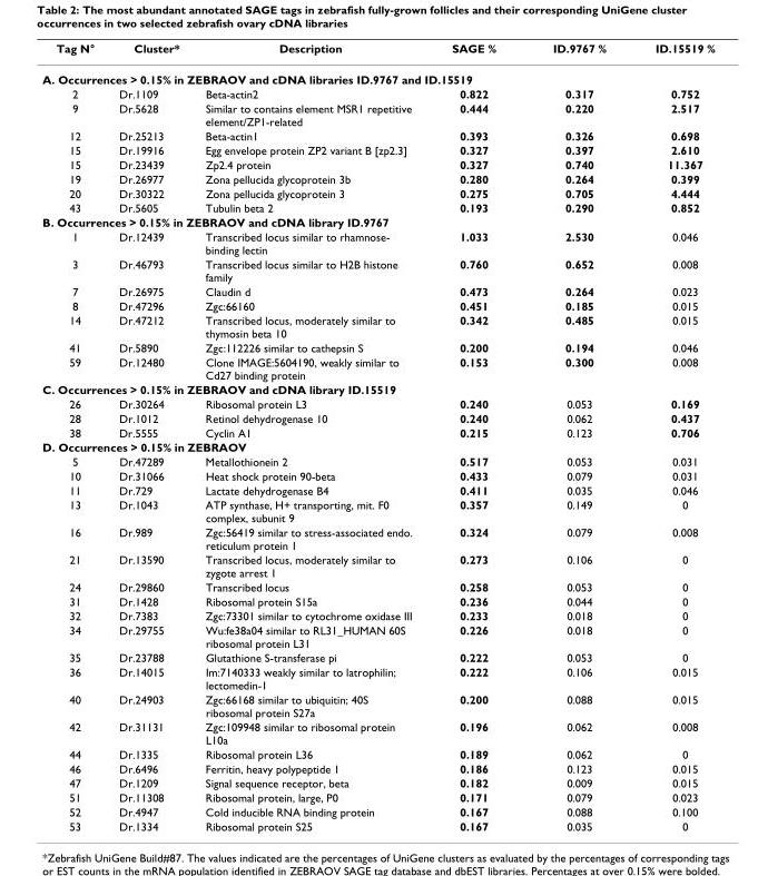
<table><thead><tr><td>Tag N°</td><td>Cluster*</td><td>Description</td><td>SAGE %</td><td>ID.9767 %</td><td>ID.15519 %</td></tr></thead><tbody><tr><td colspan="6">A. Occurrences &gt; 0.15% in ZEBRAOV and cDNA libraries ID.9767 and ID.15519</td></tr><tr><td>2</td><td>Dr.1109</td><td>Beta-actin2</td><td>0.822</td><td>0.317</td><td>0.752</td></tr><tr><td>9</td><td>Dr.5628</td><td>Similar to contains element MSR1 repetitive element/ZP1-related</td><td>0.444</td><td>0.220</td><td>2.517</td></tr><tr><td>12</td><td>Dr.25213</td><td>Beta-actin1</td><td>0.393</td><td>0.326</td><td>0.698</td></tr><tr><td>15</td><td>Dr.19916</td><td>Egg envelope protein ZP2 variant B [zp2.3]</td><td>0.327</td><td>0.397</td><td>2.610</td></tr><tr><td>15</td><td>Dr.23439</td><td>Zp2.4 protein</td><td>0.327</td><td>0.740</td><td>11.367</td></tr><tr><td>19</td><td>Dr.26977</td><td>Zona pellucida glycoprotein 3b</td><td>0.280</td><td>0.264</td><td>0.399</td></tr><tr><td>20</td><td>Dr.30322</td><td>Zona pellucida glycoprotein 3</td><td>0.275</td><td>0.705</td><td>4.444</td></tr><tr><td>43</td><td>Dr.5605</td><td>Tubulin beta 2</td><td>0.193</td><td>0.290</td><td>0.852</td></tr><tr><td colspan="6">B. Occurrences &gt; 0.15% in ZEBRAOV and cDNA library ID.9767</td></tr><tr><td>1</td><td>Dr.12439</td><td>Transcribed locus similar to rhamnose- binding lectin</td><td>1.033</td><td>2.530</td><td>0.046</td></tr><tr><td>3</td><td>Dr.46793</td><td>Transcribed locus similar to H2B histone family</td><td>0.760</td><td>0.652</td><td>0.008</td></tr><tr><td>7</td><td>Dr.26975</td><td>Claudin d</td><td>0.473</td><td>0.264</td><td>0.023</td></tr><tr><td>8</td><td>Dr.47296</td><td>Zgc:66160</td><td>0.451</td><td>0.185</td><td>0.015</td></tr><tr><td>14</td><td>Dr.47212</td><td>Transcribed locus, moderately similar to thymosin beta 10</td><td>0.342</td><td>0.485</td><td>0.015</td></tr><tr><td>41</td><td>Dr.5890</td><td>Zgc:112226 similar to cathepsin S</td><td>0.200</td><td>0.194</td><td>0.046</td></tr><tr><td>59</td><td>Dr.12480</td><td>Clone IMAGE:5604190, weakly similar to Cd27 binding protein</td><td>0.153</td><td>0.300</td><td>0.008</td></tr><tr><td colspan="6">C. Occurrences &gt; 0.15% in ZEBRAOV and cDNA library ID.15519</td></tr><tr><td>26</td><td>Dr.30264</td><td>Ribosomal protein L3</td><td>0.240</td><td>0.053</td><td>0.169</td></tr><tr><td>28</td><td>Dr.1012</td><td>Retinol dehydrogenase 10</td><td>0.240</td><td>0.062</td><td>0.437</td></tr><tr><td>38</td><td>Dr.5555</td><td>Cyclin A1</td><td>0.215</td><td>0.123</td><td>0.706</td></tr><tr><td colspan="6">D. Occurrences &gt; 0.15% in ZEBRAOV</td></tr><tr><td>5</td><td>Dr.47289</td><td>Metallothionein 2</td><td>0.517</td><td>0.053</td><td>0.031</td></tr><tr><td>10</td><td>Dr.31066</td><td>Heat shock protein 90-beta</td><td>0.433</td><td>0.079</td><td>0.031</td></tr><tr><td>11</td><td>Dr.729</td><td>Lactate dehydrogenase B4</td><td>0.411</td><td>0.035</td><td>0.046</td></tr><tr><td>13</td><td>Dr.1043</td><td>ATP synthase, H+ transporting, mit. F0 complex, subunit 9</td><td>0.357</td><td>0.149</td><td>0</td></tr><tr><td>16</td><td>Dr.989</td><td>Zgc:56419 similar to stress-associated endo. reticulum protein 1</td><td>0.324</td><td>0.079</td><td>0.008</td></tr><tr><td>21</td><td>Dr.13590</td><td>Transcribed locus, moderately similar to zygote arrest 1</td><td>0.273</td><td>0.106</td><td>0</td></tr><tr><td>24</td><td>Dr.29860</td><td>Transcribed locus</td><td>0.258</td><td>0.053</td><td>0</td></tr><tr><td>31</td><td>Dr.1428</td><td>Ribosomal protein S15a</td><td>0.236</td><td>0.044</td><td>0</td></tr><tr><td>32</td><td>Dr.7383</td><td>Zgc:73301 similar to cytochrome oxidase III</td><td>0.233</td><td>0.018</td><td>0</td></tr><tr><td>34</td><td>Dr.29755</td><td>Wu:fe38a04 similar to RL31_HUMAN 60S ribosomal protein L31</td><td>0.226</td><td>0.018</td><td>0</td></tr><tr><td>35</td><td>Dr.23788</td><td>Glutathione S-transferase pi</td><td>0.222</td><td>0.053</td><td>0</td></tr><tr><td>36</td><td>Dr.14015</td><td>Im:7140333 weakly similar to latrophilin; lectomedin-1</td><td>0.222</td><td>0.106</td><td>0.015</td></tr><tr><td>40</td><td>Dr.24903</td><td>Zgc:66168 similar to ubiquitin; 40S ribosomal protein S27a</td><td>0.200</td><td>0.088</td><td>0.015</td></tr><tr><td>42</td><td>Dr.31131</td><td>Zgc:109948 similar to ribosomal protein L10a</td><td>0.196</td><td>0.062</td><td>0.008</td></tr><tr><td>44</td><td>Dr.1335</td><td>Ribosomal protein L36</td><td>0.189</td><td>0.062</td><td>0</td></tr><tr><td>46</td><td>Dr.6496</td><td>Ferritin, heavy polypeptide 1</td><td>0.186</td><td>0.123</td><td>0.015</td></tr><tr><td>47</td><td>Dr.1209</td><td>Signal sequence receptor, beta</td><td>0.182</td><td>0.009</td><td>0.015</td></tr><tr><td>51</td><td>Dr.11308</td><td>Ribosomal protein, large, P0</td><td>0.171</td><td>0.079</td><td>0.023</td></tr><tr><td>52</td><td>Dr.4947</td><td>Cold inducible RNA binding protein</td><td>0.167</td><td>0.088</td><td>0.100</td></tr><tr><td>53</td><td>Dr.1334</td><td>Ribosomal protein S25</td><td>0.167</td><td>0.035</td><td>0</td></tr></tbody></table>